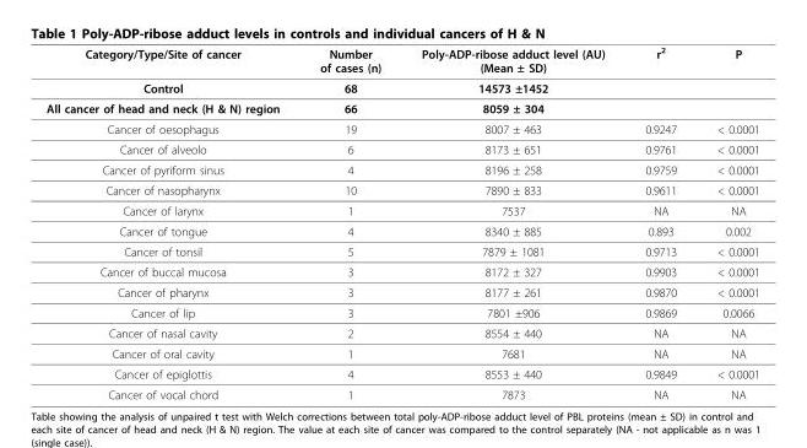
<table><thead><tr><td>Category/Type/Site of cancer</td><td>Number of cases (n)</td><td>Poly-ADP-ribose adduct level (AU) (Mean ± SD)</td><td>r<sup>2</sup></td><td>P</td></tr></thead><tbody><tr><td>Control</td><td>68</td><td>14573 ±1452</td><td></td><td></td></tr><tr><td>All cancer of head and neck (H &amp; N) region</td><td>66</td><td>8059 ± 304</td><td></td><td></td></tr><tr><td>Cancer of oesophagus</td><td>19</td><td>8007 ± 463</td><td>0.9247</td><td>&lt; 0.0001</td></tr><tr><td>Cancer of alveolo</td><td>6</td><td>8173 ± 651</td><td>0.9761</td><td>&lt; 0.0001</td></tr><tr><td>Cancer of pyriform sinus</td><td>4</td><td>8196 ± 258</td><td>0.9759</td><td>&lt; 0.0001</td></tr><tr><td>Cancer of nasopharynx</td><td>10</td><td>7890 ± 833</td><td>0.9611</td><td>&lt; 0.0001</td></tr><tr><td>Cancer of larynx</td><td>1</td><td>7537</td><td>NA</td><td>NA</td></tr><tr><td>Cancer of tongue</td><td>4</td><td>8340 ± 885</td><td>0.893</td><td>0.002</td></tr><tr><td>Cancer of tonsil</td><td>5</td><td>7879 ± 1081</td><td>0.9713</td><td>&lt; 0.0001</td></tr><tr><td>Cancer of buccal mucosa</td><td>3</td><td>8172 ± 327</td><td>0.9903</td><td>&lt; 0.0001</td></tr><tr><td>Cancer of pharynx</td><td>3</td><td>8177 ± 261</td><td>0.9870</td><td>&lt; 0.0001</td></tr><tr><td>Cancer of lip</td><td>3</td><td>7801 ±906</td><td>0.9869</td><td>0.0066</td></tr><tr><td>Cancer of nasal cavity</td><td>2</td><td>8554 ± 440</td><td>NA</td><td>NA</td></tr><tr><td>Cancer of oral cavity</td><td>1</td><td>7681</td><td>NA</td><td>NA</td></tr><tr><td>Cancer of epiglottis</td><td>4</td><td>8553 ± 440</td><td>0.9849</td><td>&lt; 0.0001</td></tr><tr><td>Cancer of vocal chord</td><td>1</td><td>7873</td><td>NA</td><td>NA</td></tr></tbody></table>